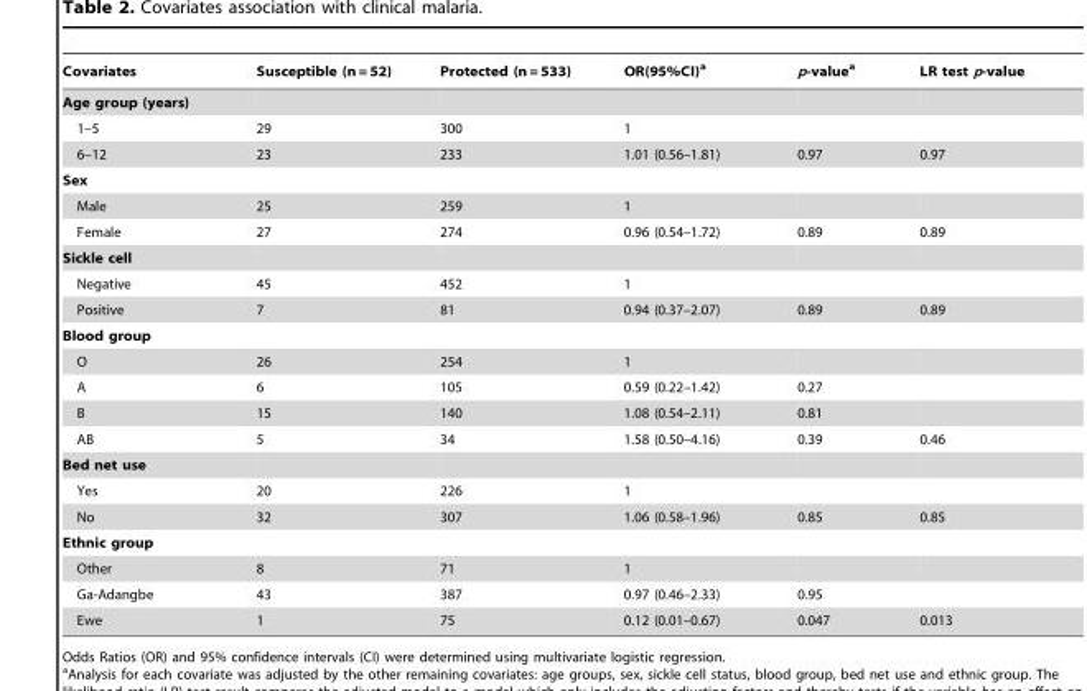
<table><thead><tr><td>Covariates</td><td>Susceptible (n = 52)</td><td>Protected (n = 533)</td><td>OR(95%CI)<sup>a</sup></td><td>p-value<sup>a</sup></td><td>LR test p-value</td></tr></thead><tbody><tr><td colspan="6">Age group (years)</td></tr><tr><td>1–5</td><td>29</td><td>300</td><td>1</td><td></td><td></td></tr><tr><td>6–12</td><td>23</td><td>233</td><td>1.01 (0.56–1.81)</td><td>0.97</td><td>0.97</td></tr><tr><td colspan="6">Sex</td></tr><tr><td>Male</td><td>25</td><td>259</td><td>1</td><td></td><td></td></tr><tr><td>Female</td><td>27</td><td>274</td><td>0.96 (0.54–1.72)</td><td>0.89</td><td>0.89</td></tr><tr><td colspan="6">Sickle cell</td></tr><tr><td>Negative</td><td>45</td><td>452</td><td>1</td><td></td><td></td></tr><tr><td>Positive</td><td>7</td><td>81</td><td>0.94 (0.37–2.07)</td><td>0.89</td><td>0.89</td></tr><tr><td colspan="6">Blood group</td></tr><tr><td>O</td><td>26</td><td>254</td><td>1</td><td></td><td></td></tr><tr><td>A</td><td>6</td><td>105</td><td>0.59 (0.22–1.42)</td><td>0.27</td><td></td></tr><tr><td>B</td><td>15</td><td>140</td><td>1.08 (0.54–2.11)</td><td>0.81</td><td></td></tr><tr><td>AB</td><td>5</td><td>34</td><td>1.58 (0.50–4.16)</td><td>0.39</td><td>0.46</td></tr><tr><td colspan="6">Bed net use</td></tr><tr><td>Yes</td><td>20</td><td>226</td><td>1</td><td></td><td></td></tr><tr><td>No</td><td>32</td><td>307</td><td>1.06 (0.58–1.96)</td><td>0.85</td><td>0.85</td></tr><tr><td colspan="6">Ethnic group</td></tr><tr><td>Other</td><td>8</td><td>71</td><td>1</td><td></td><td></td></tr><tr><td>Ga-Adangbe</td><td>43</td><td>387</td><td>0.97 (0.46–2.33)</td><td>0.95</td><td></td></tr><tr><td>Ewe</td><td>1</td><td>75</td><td>0.12 (0.01–0.67)</td><td>0.047</td><td>0.013</td></tr></tbody></table>